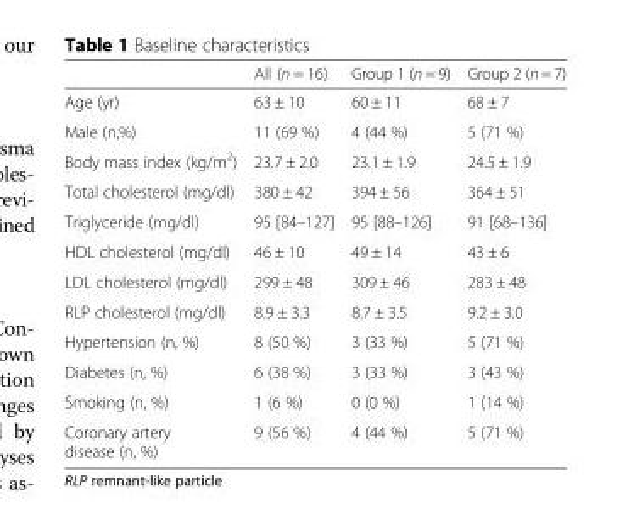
<table><thead><tr><td></td><td>All (n = 16)</td><td>Group 1 (n = 9)</td><td>Group 2 (n = 7)</td></tr></thead><tbody><tr><td>Age (yr)</td><td>63 ± 10</td><td>60 ± 11</td><td>68 ± 7</td></tr><tr><td>Male (n,%)</td><td>11 (69 %)</td><td>4 (44 %)</td><td>5 (71 %)</td></tr><tr><td>Body mass index (kg/m<sup>2</sup>)</td><td>23.7 ± 2.0</td><td>23.1 ± 1.9</td><td>24.5 ± 1.9</td></tr><tr><td>Total cholesterol (mg/dl)</td><td>380 ± 42</td><td>394 ± 56</td><td>364 ± 51</td></tr><tr><td>Triglyceride (mg/dl)</td><td>95 [84–127]</td><td>95 [88–126]</td><td>91 [68–136]</td></tr><tr><td>HDL cholesterol (mg/dl)</td><td>46 ± 10</td><td>49 ± 14</td><td>43 ± 6</td></tr><tr><td>LDL cholesterol (mg/dl)</td><td>299 ± 48</td><td>309 ± 46</td><td>283 ± 48</td></tr><tr><td>RLP cholesterol (mg/dl)</td><td>8.9 ± 3.3</td><td>8.7 ± 3.5</td><td>9.2 ± 3.0</td></tr><tr><td>Hypertension (n, %)</td><td>8 (50 %)</td><td>3 (33 %)</td><td>5 (71 %)</td></tr><tr><td>Diabetes (n, %)</td><td>6 (38 %)</td><td>3 (33 %)</td><td>3 (43 %)</td></tr><tr><td>Smoking (n, %)</td><td>1 (6 %)</td><td>0 (0 %)</td><td>1 (14 %)</td></tr><tr><td>Coronary artery disease (n, %)</td><td>9 (56 %)</td><td>4 (44 %)</td><td>5 (71 %)</td></tr></tbody></table>